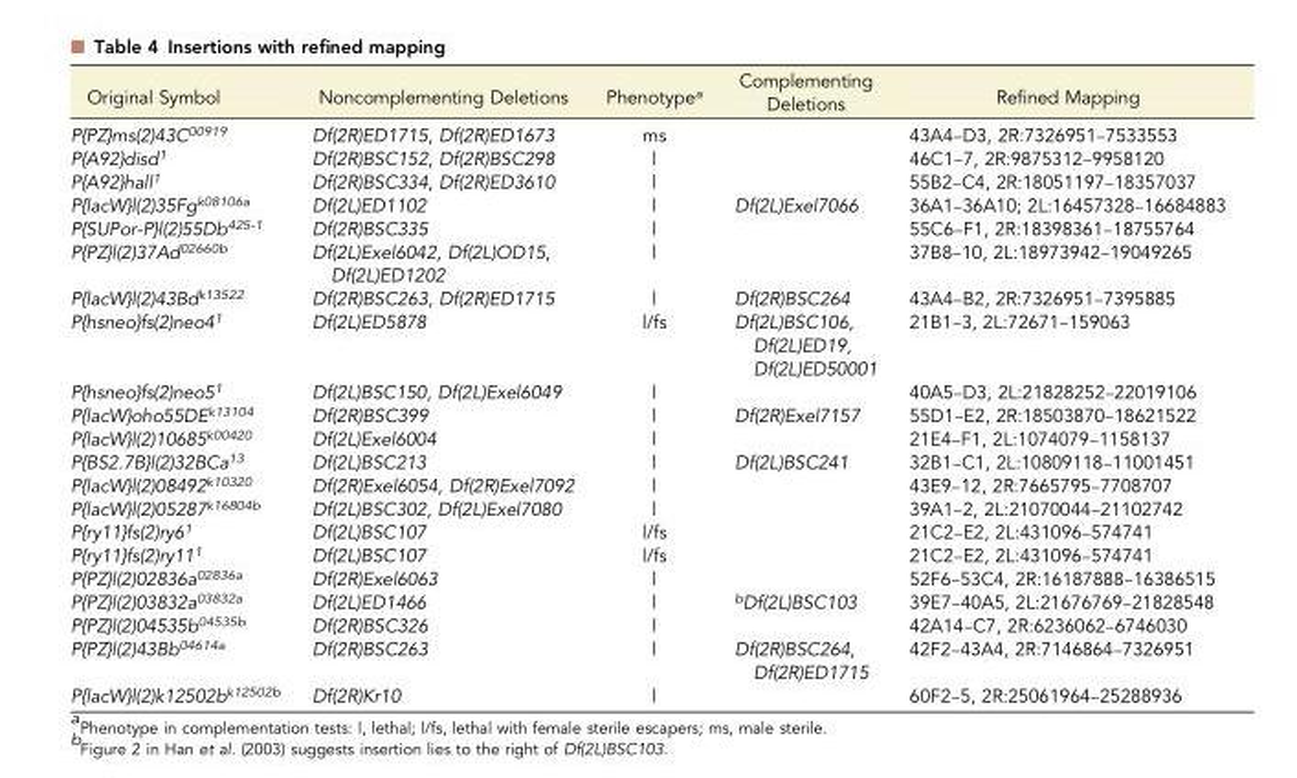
<table><thead><tr><td>Original Symbol</td><td>Noncomplementing Deletions</td><td>Phenotype<sup>a</sup></td><td>Complementing Deletions</td><td>Refined Mapping</td></tr></thead><tbody><tr><td>P{PZ}ms(2)43C<sup>00919</sup></td><td>Df(2R)ED1715, Df(2R)ED1673</td><td>ms</td><td></td><td>43A4–D3, 2R:7326951–7533553</td></tr><tr><td>P{A92}disd<sup>1</sup></td><td>Df(2R)BSC152, Df(2R)BSC298</td><td>l</td><td></td><td>46C1–7, 2R:9875312–9958120</td></tr><tr><td>P{A92}hall<sup>1</sup></td><td>Df(2R)BSC334, Df(2R)ED3610</td><td>l</td><td></td><td>55B2–C4, 2R:18051197–18357037</td></tr><tr><td>P{lacW}l(2)35Fg<sup>k08106a</sup></td><td>Df(2L)ED1102</td><td>l</td><td>Df(2L)Exel7066</td><td>36A1–36A10; 2L:16457328–16684883</td></tr><tr><td>P{SUPor-P}l(2)55Db<sup>425-1</sup></td><td>Df(2R)BSC335</td><td>l</td><td></td><td>55C6–F1, 2R:18398361–18755764</td></tr><tr><td>P{PZ}l(2)37Ad<sup>02660b</sup></td><td>Df(2L)Exel6042, Df(2L)OD15, Df(2L)ED1202</td><td>l</td><td></td><td>37B8–10, 2L:18973942–19049265</td></tr><tr><td>P{lacW}l(2)43Bd<sup>k13522</sup></td><td>Df(2R)BSC263, Df(2R)ED1715</td><td>l</td><td>Df(2R)BSC264</td><td>43A4–B2, 2R:7326951–7395885</td></tr><tr><td>P{hsneo}fs(2)neo4<sup>1</sup></td><td>Df(2L)ED5878</td><td>l/fs</td><td>Df(2L)BSC106, Df(2L)ED19, Df(2L)ED50001</td><td>21B1–3, 2L:72671–159063</td></tr><tr><td>P{hsneo}fs(2)neo5<sup>1</sup></td><td>Df(2L)BSC150, Df(2L)Exel6049</td><td>l</td><td></td><td>40A5–D3, 2L:21828252–22019106</td></tr><tr><td>P{lacW}oho55DE<sup>k13104</sup></td><td>Df(2R)BSC399</td><td>l</td><td>Df(2R)Exel7157</td><td>55D1–E2, 2R:18503870–18621522</td></tr><tr><td>P{lacW}l(2)10685<sup>k00420</sup></td><td>Df(2L)Exel6004</td><td>l</td><td></td><td>21E4–F1, 2L:1074079–1158137</td></tr><tr><td>P{BS2.7B}l(2)32BCa<sup>13</sup></td><td>Df(2L)BSC213</td><td>l</td><td>Df(2L)BSC241</td><td>32B1–C1, 2L:10809118–11001451</td></tr><tr><td>P{lacW}l(2)08492<sup>k10320</sup></td><td>Df(2R)Exel6054, Df(2R)Exel7092</td><td>l</td><td></td><td>43E9–12, 2R:7665795–7708707</td></tr><tr><td>P{lacW}l(2)05287<sup>k16804b</sup></td><td>Df(2L)BSC302, Df(2L)Exel7080</td><td>l</td><td></td><td>39A1–2, 2L:21070044–21102742</td></tr><tr><td>P{ry11}fs(2)ry6<sup>1</sup></td><td>Df(2L)BSC107</td><td>l/fs</td><td></td><td>21C2–E2, 2L:431096–574741</td></tr><tr><td>P{ry11}fs(2)ry11<sup>1</sup></td><td>Df(2L)BSC107</td><td>l/fs</td><td></td><td>21C2–E2, 2L:431096–574741</td></tr><tr><td>P{PZ}l(2)02836a<sup>02836a</sup></td><td>Df(2R)Exel6063</td><td>l</td><td></td><td>52F6–53C4, 2R:16187888–16386515</td></tr><tr><td>P{PZ}l(2)03832a<sup>03832a</sup></td><td>Df(2L)ED1466</td><td>l</td><td><sup>b</sup>Df(2L)BSC103</td><td>39E7–40A5, 2L:21676769–21828548</td></tr><tr><td>P{PZ}l(2)04535b<sup>04535b</sup></td><td>Df(2R)BSC326</td><td>l</td><td></td><td>42A14–C7, 2R:6236062–6746030</td></tr><tr><td>P{PZ}l(2)43Bb<sup>04614a</sup></td><td>Df(2R)BSC263</td><td>l</td><td>Df(2R)BSC264, Df(2R)ED1715</td><td>42F2–43A4, 2R:7146864–7326951</td></tr><tr><td>P{lacW}l(2)k12502b<sup>k12502b</sup></td><td>Df(2R)Kr10</td><td>l</td><td></td><td>60F2–5, 2R:25061964–25288936</td></tr></tbody></table>